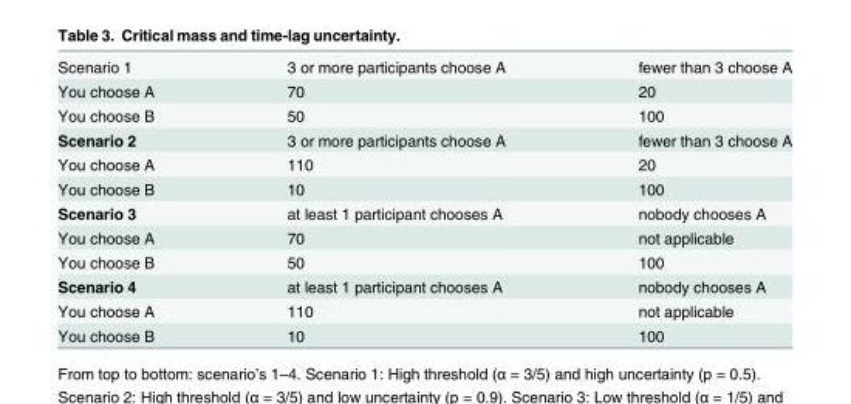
<table><tbody><tr><td>Scenario 1</td><td>3 or more participants choose A</td><td>fewer than 3 choose A</td></tr><tr><td>You choose A</td><td>70</td><td>20</td></tr><tr><td>You choose B</td><td>50</td><td>100</td></tr><tr><td>Scenario 2</td><td>3 or more participants choose A</td><td>fewer than 3 choose A</td></tr><tr><td>You choose A</td><td>110</td><td>20</td></tr><tr><td>You choose B</td><td>10</td><td>100</td></tr><tr><td>Scenario 3</td><td>at least 1 participant chooses A</td><td>nobody chooses A</td></tr><tr><td>You choose A</td><td>70</td><td>not applicable</td></tr><tr><td>You choose B</td><td>50</td><td>100</td></tr><tr><td>Scenario 4</td><td>at least 1 participant chooses A</td><td>nobody chooses A</td></tr><tr><td>You choose A</td><td>110</td><td>not applicable</td></tr><tr><td>You choose B</td><td>10</td><td>100</td></tr></tbody></table>